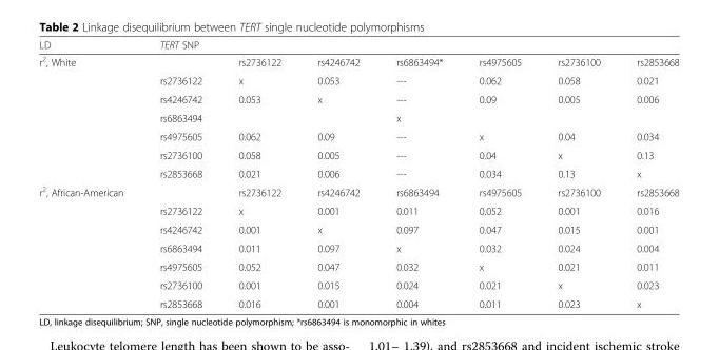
<table><thead><tr><td>LD</td><td>TERT SNP</td><td></td><td></td><td></td><td></td><td></td><td></td></tr></thead><tbody><tr><td rowspan="7">r<sup>2</sup>, White</td><td></td><td>rs2736122</td><td>rs4246742</td><td>rs6863494*</td><td>rs4975605</td><td>rs2736100</td><td>rs2853668</td></tr><tr><td>rs2736122</td><td>x</td><td>0.053</td><td>---</td><td>0.062</td><td>0.058</td><td>0.021</td></tr><tr><td>rs4246742</td><td>0.053</td><td>x</td><td>---</td><td>0.09</td><td>0.005</td><td>0.006</td></tr><tr><td>rs6863494</td><td></td><td></td><td>x</td><td></td><td></td><td></td></tr><tr><td>rs4975605</td><td>0.062</td><td>0.09</td><td>---</td><td>x</td><td>0.04</td><td>0.034</td></tr><tr><td>rs2736100</td><td>0.058</td><td>0.005</td><td>---</td><td>0.04</td><td>x</td><td>0.13</td></tr><tr><td>rs2853668</td><td>0.021</td><td>0.006</td><td>---</td><td>0.034</td><td>0.13</td><td>x</td></tr><tr><td rowspan="7">r<sup>2</sup>, African-American</td><td></td><td>rs2736122</td><td>rs4246742</td><td>rs6863494</td><td>rs4975605</td><td>rs2736100</td><td>rs2853668</td></tr><tr><td>rs2736122</td><td>x</td><td>0.001</td><td>0.011</td><td>0.052</td><td>0.001</td><td>0.016</td></tr><tr><td>rs4246742</td><td>0.001</td><td>x</td><td>0.097</td><td>0.047</td><td>0.015</td><td>0.001</td></tr><tr><td>rs6863494</td><td>0.011</td><td>0.097</td><td>x</td><td>0.032</td><td>0.024</td><td>0.004</td></tr><tr><td>rs4975605</td><td>0.052</td><td>0.047</td><td>0.032</td><td>x</td><td>0.021</td><td>0.011</td></tr><tr><td>rs2736100</td><td>0.001</td><td>0.015</td><td>0.024</td><td>0.021</td><td>x</td><td>0.023</td></tr><tr><td>rs2853668</td><td>0.016</td><td>0.001</td><td>0.004</td><td>0.011</td><td>0.023</td><td>x</td></tr></tbody></table>